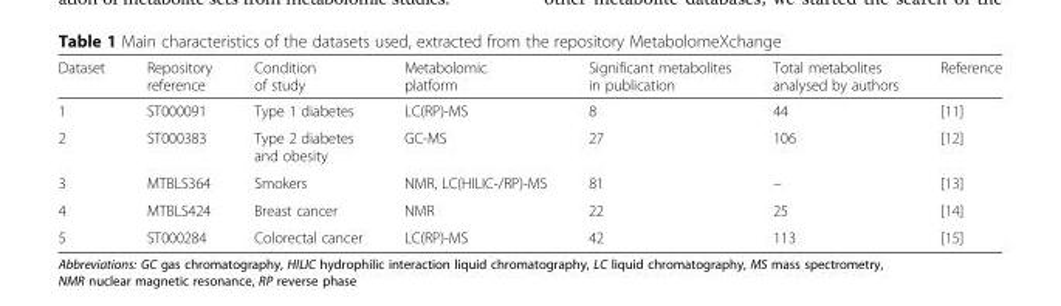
<table><thead><tr><td>Dataset</td><td>Repository reference</td><td>Condition of study</td><td>Metabolomic platform</td><td>Significant metabolites in publication</td><td>Total metabolites analysed by authors</td><td>Reference</td></tr></thead><tbody><tr><td>1</td><td>ST000091</td><td>Type 1 diabetes</td><td>LC(RP)-MS</td><td>8</td><td>44</td><td>[11]</td></tr><tr><td>2</td><td>ST000383</td><td>Type 2 diabetes and obesity</td><td>GC-MS</td><td>27</td><td>106</td><td>[12]</td></tr><tr><td>3</td><td>MTBLS364</td><td>Smokers</td><td>NMR, LC(HILIC-/RP)-MS</td><td>81</td><td>–</td><td>[13]</td></tr><tr><td>4</td><td>MTBLS424</td><td>Breast cancer</td><td>NMR</td><td>22</td><td>25</td><td>[14]</td></tr><tr><td>5</td><td>ST000284</td><td>Colorectal cancer</td><td>LC(RP)-MS</td><td>42</td><td>113</td><td>[15]</td></tr></tbody></table>